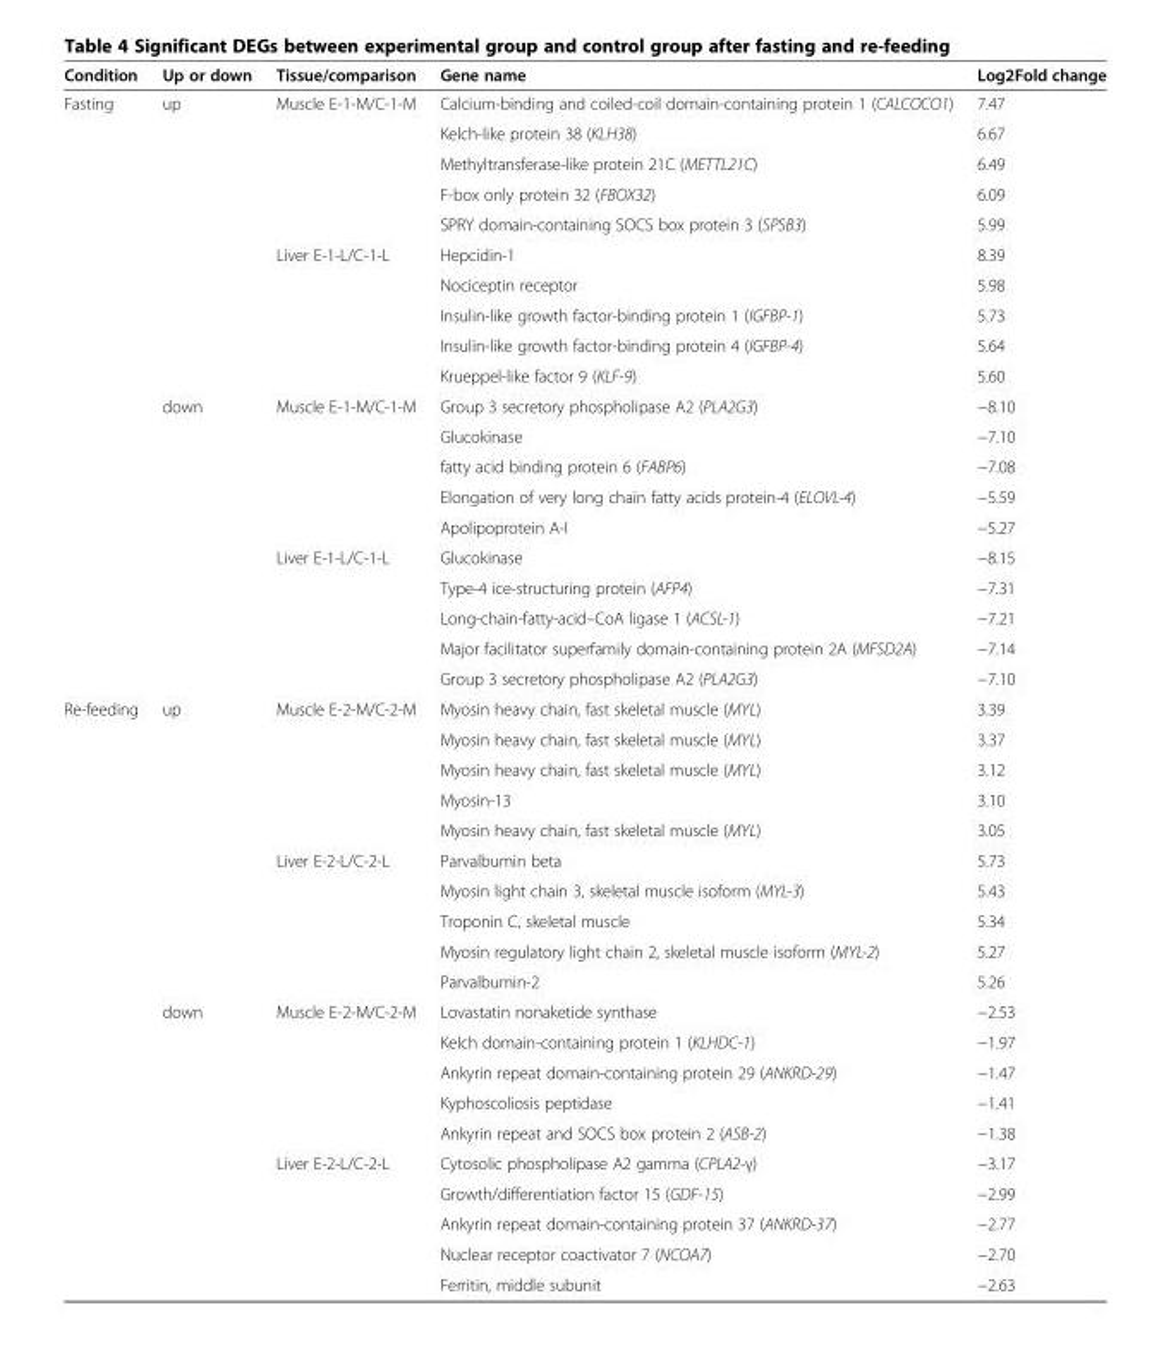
<table><thead><tr><td>Condition</td><td>Up or down</td><td>Tissue/comparison</td><td>Gene name</td><td>Log2Fold change</td></tr></thead><tbody><tr><td rowspan="20">Fasting</td><td rowspan="10">up</td><td rowspan="5">Muscle E-1-M/C-1-M</td><td>Calcium-binding and coiled-coil domain-containing protein 1 (CALCOCO1)</td><td>7.47</td></tr><tr><td>Kelch-like protein 38 (KLH38)</td><td>6.67</td></tr><tr><td>Methyltransferase-like protein 21C (METTL21C)</td><td>6.49</td></tr><tr><td>F-box only protein 32 (FBOX32)</td><td>6.09</td></tr><tr><td>SPRY domain-containing SOCS box protein 3 (SPSB3)</td><td>5.99</td></tr><tr><td rowspan="5">Liver E-1-L/C-1-L</td><td>Hepcidin-1</td><td>8.39</td></tr><tr><td>Nociceptin receptor</td><td>5.98</td></tr><tr><td>Insulin-like growth factor-binding protein 1 (IGFBP-1)</td><td>5.73</td></tr><tr><td>Insulin-like growth factor-binding protein 4 (IGFBP-4)</td><td>5.64</td></tr><tr><td>Krueppel-like factor 9 (KLF-9)</td><td>5.60</td></tr><tr><td rowspan="10">down</td><td rowspan="5">Muscle E-1-M/C-1-M</td><td>Group 3 secretory phospholipase A2 (PLA2G3)</td><td>−8.10</td></tr><tr><td>Glucokinase</td><td>−7.10</td></tr><tr><td>fatty acid binding protein 6 (FABP6)</td><td>−7.08</td></tr><tr><td>Elongation of very long chain fatty acids protein-4 (ELOVL-4)</td><td>−5.59</td></tr><tr><td>Apolipoprotein A-I</td><td>−5.27</td></tr><tr><td rowspan="5">Liver E-1-L/C-1-L</td><td>Glucokinase</td><td>−8.15</td></tr><tr><td>Type-4 ice-structuring protein (AFP4)</td><td>−7.31</td></tr><tr><td>Long-chain-fatty-acid–CoA ligase 1 (ACSL-1)</td><td>−7.21</td></tr><tr><td>Major facilitator superfamily domain-containing protein 2A (MFSD2A)</td><td>−7.14</td></tr><tr><td>Group 3 secretory phospholipase A2 (PLA2G3)</td><td>−7.10</td></tr><tr><td rowspan="20">Re-feeding</td><td rowspan="10">up</td><td rowspan="5">Muscle E-2-M/C-2-M</td><td>Myosin heavy chain, fast skeletal muscle (MYL)</td><td>3.39</td></tr><tr><td>Myosin heavy chain, fast skeletal muscle (MYL)</td><td>3.37</td></tr><tr><td>Myosin heavy chain, fast skeletal muscle (MYL)</td><td>3.12</td></tr><tr><td>Myosin-13</td><td>3.10</td></tr><tr><td>Myosin heavy chain, fast skeletal muscle (MYL)</td><td>3.05</td></tr><tr><td rowspan="5">Liver E-2-L/C-2-L</td><td>Parvalbumin beta</td><td>5.73</td></tr><tr><td>Myosin light chain 3, skeletal muscle isoform (MYL-3)</td><td>5.43</td></tr><tr><td>Troponin C, skeletal muscle</td><td>5.34</td></tr><tr><td>Myosin regulatory light chain 2, skeletal muscle isoform (MYL-2)</td><td>5.27</td></tr><tr><td>Parvalbumin-2</td><td>5.26</td></tr><tr><td rowspan="10">down</td><td rowspan="5">Muscle E-2-M/C-2-M</td><td>Lovastatin nonaketide synthase</td><td>−2.53</td></tr><tr><td>Kelch domain-containing protein 1 (KLHDC-1)</td><td>−1.97</td></tr><tr><td>Ankyrin repeat domain-containing protein 29 (ANKRD-29)</td><td>−1.47</td></tr><tr><td>Kyphoscoliosis peptidase</td><td>−1.41</td></tr><tr><td>Ankyrin repeat and SOCS box protein 2 (ASB-2)</td><td>−1.38</td></tr><tr><td rowspan="5">Liver E-2-L/C-2-L</td><td>Cytosolic phospholipase A2 gamma (CPLA2-γ)</td><td>−3.17</td></tr><tr><td>Growth/differentiation factor 15 (GDF-15)</td><td>−2.99</td></tr><tr><td>Ankyrin repeat domain-containing protein 37 (ANKRD-37)</td><td>−2.77</td></tr><tr><td>Nuclear receptor coactivator 7 (NCOA7)</td><td>−2.70</td></tr><tr><td>Ferritin, middle subunit</td><td>−2.63</td></tr></tbody></table>